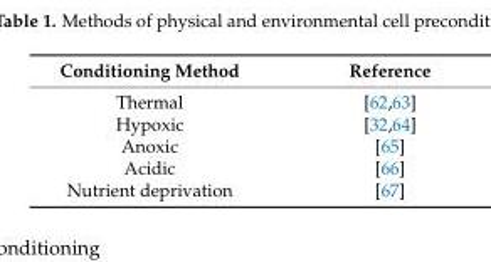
<table><thead><tr><td>Conditioning Method</td><td>Reference</td></tr></thead><tbody><tr><td>Thermal</td><td>[62,63]</td></tr><tr><td>Hypoxic</td><td>[32,64]</td></tr><tr><td>Anoxic</td><td>[65]</td></tr><tr><td>Acidic</td><td>[66]</td></tr><tr><td>Nutrient deprivation</td><td>[67]</td></tr></tbody></table>